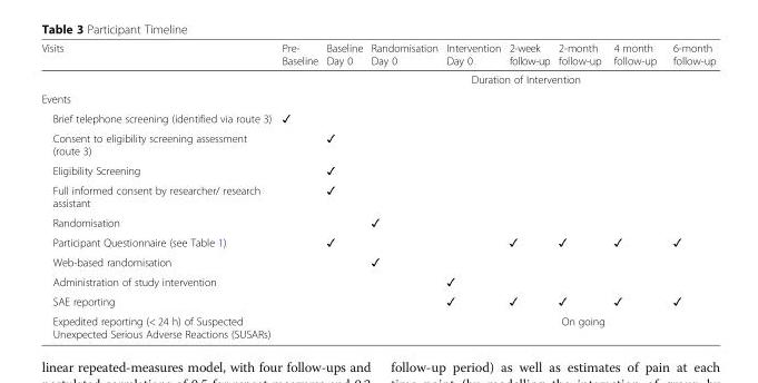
<table><thead><tr><td>Visits</td><td>Pre- Baseline</td><td>Baseline Day 0</td><td>Randomisation Day 0</td><td>Intervention Day 0</td><td>2-week follow-up</td><td>2-month follow-up</td><td>4 month follow-up</td><td>6-month follow-up</td></tr></thead><tbody><tr><td></td><td></td><td></td><td></td><td colspan="3">Duration of Intervention</td><td></td><td></td></tr><tr><td colspan="9">Events</td></tr><tr><td>Brief telephone screening (identified via route 3)</td><td>✓</td><td></td><td></td><td></td><td></td><td></td><td></td><td></td></tr><tr><td>Consent to eligibility screening assessment (route 3)</td><td></td><td>✓</td><td></td><td></td><td></td><td></td><td></td><td></td></tr><tr><td>Eligibility Screening</td><td></td><td>✓</td><td></td><td></td><td></td><td></td><td></td><td></td></tr><tr><td>Full informed consent by researcher/ research assistant</td><td></td><td>✓</td><td></td><td></td><td></td><td></td><td></td><td></td></tr><tr><td>Randomisation</td><td></td><td></td><td>✓</td><td></td><td></td><td></td><td></td><td></td></tr><tr><td>Participant Questionnaire (see Table 1)</td><td></td><td>✓</td><td></td><td></td><td>✓</td><td>✓</td><td>✓</td><td>✓</td></tr><tr><td>Web-based randomisation</td><td></td><td></td><td>✓</td><td></td><td></td><td></td><td></td><td></td></tr><tr><td>Administration of study intervention</td><td></td><td></td><td></td><td>✓</td><td></td><td></td><td></td><td></td></tr><tr><td>SAE reporting</td><td></td><td></td><td></td><td>✓</td><td>✓</td><td>✓</td><td>✓</td><td>✓</td></tr><tr><td>Expedited reporting (&lt; 24 h) of Suspected Unexpected Serious Adverse Reactions (SUSARs)</td><td></td><td></td><td></td><td colspan="5">On going</td></tr></tbody></table>